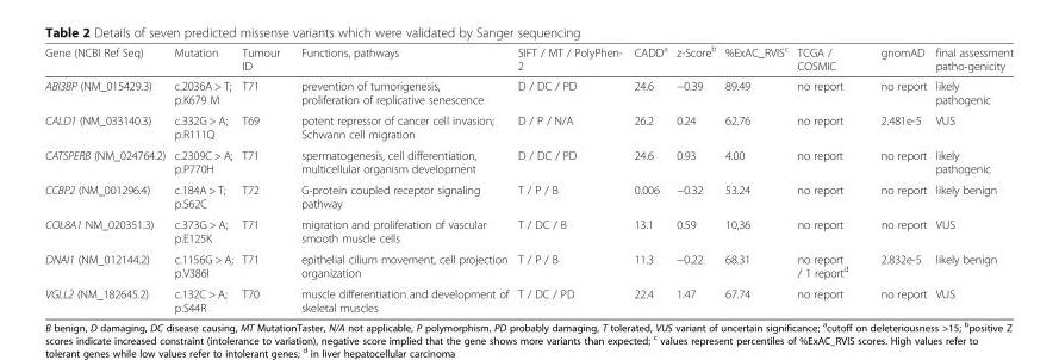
<table><thead><tr><td>Gene (NCBI Ref Seq)</td><td>Mutation</td><td>Tumour ID</td><td>Functions, pathways</td><td>SIFT / MT / PolyPhen- 2</td><td>CADD<sup>a</sup></td><td>z-Score<sup>b</sup></td><td>%ExAC_RVIS<sup>c</sup></td><td>TCGA / COSMIC</td><td>gnomAD</td><td>final assessment patho-genicity</td></tr></thead><tbody><tr><td>ABI3BP (NM_015429.3)</td><td>c.2036A &gt; T; p.K679 M</td><td>T71</td><td>prevention of tumorigenesis, proliferation of replicative senescence</td><td>D / DC / PD</td><td>24.6</td><td>−0.39</td><td>89.49</td><td>no report</td><td>no report</td><td>likely pathogenic</td></tr><tr><td>CALD1 (NM_033140.3)</td><td>c.332G &gt; A; p.R111Q</td><td>T69</td><td>potent repressor of cancer cell invasion; Schwann cell migration</td><td>D / P / N/A</td><td>26.2</td><td>0.24</td><td>62.76</td><td>no report</td><td>2.481e-5</td><td>VUS</td></tr><tr><td>CATSPERB (NM_024764.2)</td><td>c.2309C &gt; A; p.P770H</td><td>T71</td><td>spermatogenesis, cell differentiation, multicellular organism development</td><td>D / DC / PD</td><td>24.6</td><td>0.93</td><td>4.00</td><td>no report</td><td>no report</td><td>likely pathogenic</td></tr><tr><td>CCBP2 (NM_001296.4)</td><td>c.184A &gt; T; p.S62C</td><td>T72</td><td>G-protein coupled receptor signaling pathway</td><td>T / P / B</td><td>0.006</td><td>−0.32</td><td>53.24</td><td>no report</td><td>no report</td><td>likely benign</td></tr><tr><td>COL8A1 NM_020351.3)</td><td>c.373G &gt; A; p.E125K</td><td>T71</td><td>migration and proliferation of vascular smooth muscle cells</td><td>T / DC / B</td><td>13.1</td><td>0.59</td><td>10,36</td><td>no report</td><td>no report</td><td>VUS</td></tr><tr><td>DNAI1 (NM_012144.2)</td><td>c.1156G &gt; A; p.V386I</td><td>T71</td><td>epithelial cilium movement, cell projection organization</td><td>T / P / B</td><td>11.3</td><td>−0.22</td><td>68.31</td><td>no report / 1 report<sup>d</sup></td><td>2.832e-5</td><td>likely benign</td></tr><tr><td>VGLL2 (NM_182645.2)</td><td>c.132C &gt; A; p.S44R</td><td>T70</td><td>muscle differentiation and development of skeletal muscles</td><td>T / DC / PD</td><td>22.4</td><td>1.47</td><td>67.74</td><td>no report</td><td>no report</td><td>VUS</td></tr></tbody></table>